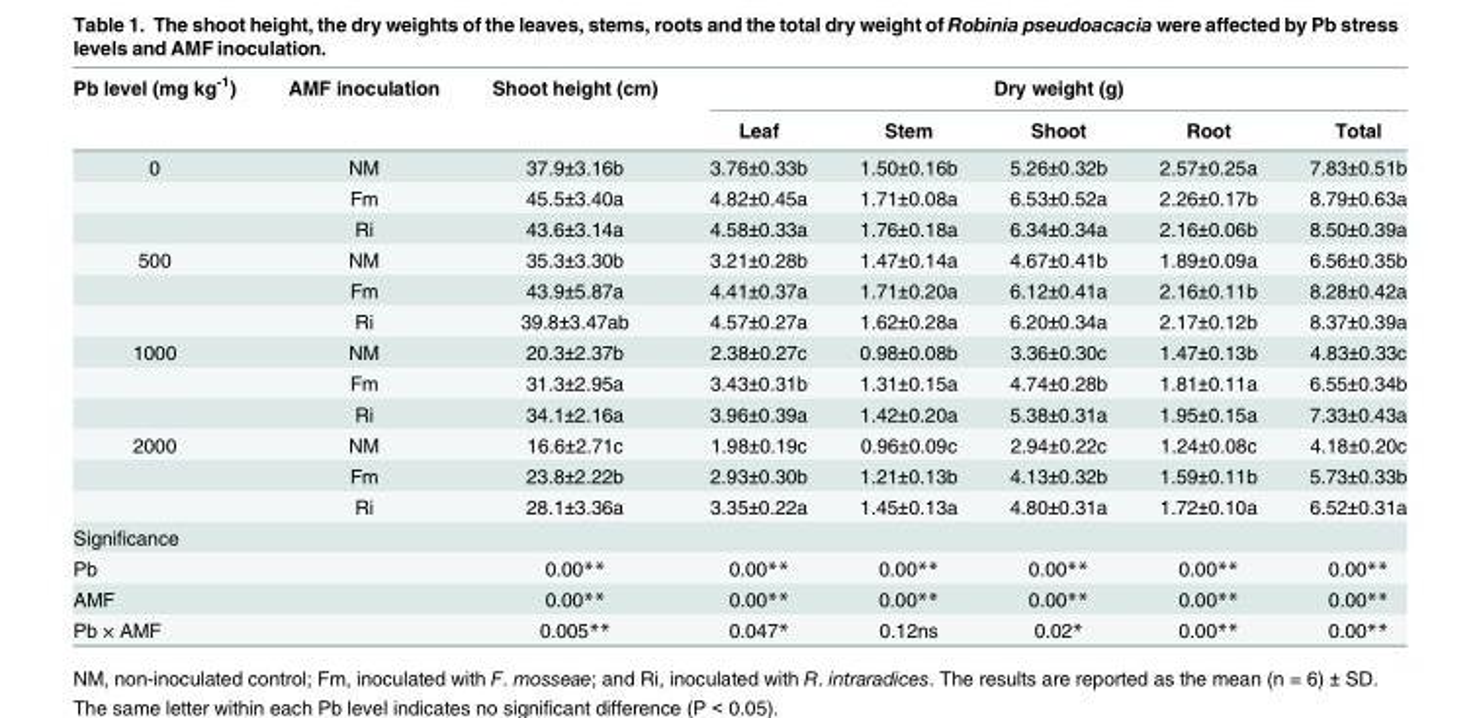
<table><thead><tr><td rowspan="2">Pb level (mg kg<sup>-1</sup>)</td><td rowspan="2">AMF inoculation</td><td rowspan="2">Shoot height (cm)</td><td colspan="5">Dry weight (g)</td></tr><tr><td>Leaf</td><td>Stem</td><td>Shoot</td><td>Root</td><td>Total</td></tr></thead><tbody><tr><td rowspan="3">0</td><td>NM</td><td>37.9±3.16b</td><td>3.76±0.33b</td><td>1.50±0.16b</td><td>5.26±0.32b</td><td>2.57±0.25a</td><td>7.83±0.51b</td></tr><tr><td>Fm</td><td>45.5±3.40a</td><td>4.82±0.45a</td><td>1.71±0.08a</td><td>6.53±0.52a</td><td>2.26±0.17b</td><td>8.79±0.63a</td></tr><tr><td>Ri</td><td>43.6±3.14a</td><td>4.58±0.33a</td><td>1.76±0.18a</td><td>6.34±0.34a</td><td>2.16±0.06b</td><td>8.50±0.39a</td></tr><tr><td rowspan="3">500</td><td>NM</td><td>35.3±3.30b</td><td>3.21±0.28b</td><td>1.47±0.14a</td><td>4.67±0.41b</td><td>1.89±0.09a</td><td>6.56±0.35b</td></tr><tr><td>Fm</td><td>43.9±5.87a</td><td>4.41±0.37a</td><td>1.71±0.20a</td><td>6.12±0.41a</td><td>2.16±0.11b</td><td>8.28±0.42a</td></tr><tr><td>Ri</td><td>39.8±3.47ab</td><td>4.57±0.27a</td><td>1.62±0.28a</td><td>6.20±0.34a</td><td>2.17±0.12b</td><td>8.37±0.39a</td></tr><tr><td rowspan="3">1000</td><td>NM</td><td>20.3±2.37b</td><td>2.38±0.27c</td><td>0.98±0.08b</td><td>3.36±0.30c</td><td>1.47±0.13b</td><td>4.83±0.33c</td></tr><tr><td>Fm</td><td>31.3±2.95a</td><td>3.43±0.31b</td><td>1.31±0.15a</td><td>4.74±0.28b</td><td>1.81±0.11a</td><td>6.55±0.34b</td></tr><tr><td>Ri</td><td>34.1±2.16a</td><td>3.96±0.39a</td><td>1.42±0.20a</td><td>5.38±0.31a</td><td>1.95±0.15a</td><td>7.33±0.43a</td></tr><tr><td rowspan="3">2000</td><td>NM</td><td>16.6±2.71c</td><td>1.98±0.19c</td><td>0.96±0.09c</td><td>2.94±0.22c</td><td>1.24±0.08c</td><td>4.18±0.20c</td></tr><tr><td>Fm</td><td>23.8±2.22b</td><td>2.93±0.30b</td><td>1.21±0.13b</td><td>4.13±0.32b</td><td>1.59±0.11b</td><td>5.73±0.33b</td></tr><tr><td>Ri</td><td>28.1±3.36a</td><td>3.35±0.22a</td><td>1.45±0.13a</td><td>4.80±0.31a</td><td>1.72±0.10a</td><td>6.52±0.31a</td></tr><tr><td colspan="8">Significance</td></tr><tr><td colspan="2">Pb</td><td>0.00**</td><td>0.00**</td><td>0.00**</td><td>0.00**</td><td>0.00**</td><td>0.00**</td></tr><tr><td colspan="2">AMF</td><td>0.00**</td><td>0.00**</td><td>0.00**</td><td>0.00**</td><td>0.00**</td><td>0.00**</td></tr><tr><td colspan="2">Pb × AMF</td><td>0.005**</td><td>0.047*</td><td>0.12ns</td><td>0.02*</td><td>0.00**</td><td>0.00**</td></tr></tbody></table>